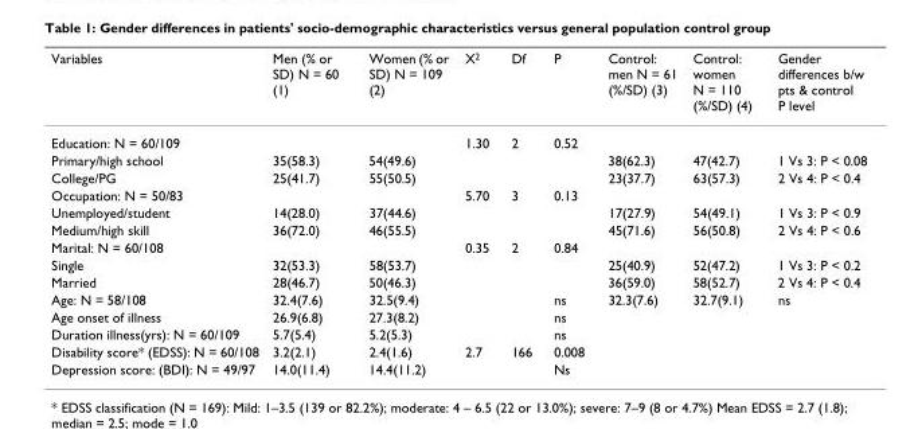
<table><thead><tr><td>Variables</td><td>Men (% or SD) N = 60 (1)</td><td>Women (% or SD) N = 109 (2)</td><td>X<sup>2</sup></td><td>Df</td><td>P</td><td>Control: men N = 61 (%/SD) (3)</td><td>Control: women N = 110 (%/SD) (4)</td><td>Gender differences b/w pts &amp; control P level</td></tr></thead><tbody><tr><td>Education: N = 60/109</td><td></td><td></td><td>1.30</td><td>2</td><td>0.52</td><td></td><td></td><td></td></tr><tr><td>Primary/high school</td><td>35(58.3)</td><td>54(49.6)</td><td></td><td></td><td></td><td>38(62.3)</td><td>47(42.7)</td><td>1 Vs 3: P &lt; 0.08</td></tr><tr><td>College/PG</td><td>25(41.7)</td><td>55(50.5)</td><td></td><td></td><td></td><td>23(37.7)</td><td>63(57.3)</td><td>2 Vs 4: P &lt; 0.4</td></tr><tr><td>Occupation: N = 50/83</td><td></td><td></td><td>5.70</td><td>3</td><td>0.13</td><td></td><td></td><td></td></tr><tr><td>Unemployed/student</td><td>14(28.0)</td><td>37(44.6)</td><td></td><td></td><td></td><td>17(27.9)</td><td>54(49.1)</td><td>1 Vs 3: P &lt; 0.9</td></tr><tr><td>Medium/high skill</td><td>36(72.0)</td><td>46(55.5)</td><td></td><td></td><td></td><td>45(71.6)</td><td>56(50.8)</td><td>2 Vs 4: P &lt; 0.6</td></tr><tr><td>Marital: N = 60/108</td><td></td><td></td><td>0.35</td><td>2</td><td>0.84</td><td></td><td></td><td></td></tr><tr><td>Single</td><td>32(53.3)</td><td>58(53.7)</td><td></td><td></td><td></td><td>25(40.9)</td><td>52(47.2)</td><td>1 Vs 3: P &lt; 0.2</td></tr><tr><td>Married</td><td>28(46.7)</td><td>50(46.3)</td><td></td><td></td><td></td><td>36(59.0)</td><td>58(52.7)</td><td>2 Vs 4: P &lt; 0.4</td></tr><tr><td>Age: N = 58/108</td><td>32.4(7.6)</td><td>32.5(9.4)</td><td></td><td></td><td>ns</td><td>32.3(7.6)</td><td>32.7(9.1)</td><td>ns</td></tr><tr><td>Age onset of illness</td><td>26.9(6.8)</td><td>27.3(8.2)</td><td></td><td></td><td>ns</td><td></td><td></td><td></td></tr><tr><td>Duration illness(yrs): N = 60/109</td><td>5.7(5.4)</td><td>5.2(5.3)</td><td></td><td></td><td>ns</td><td></td><td></td><td></td></tr><tr><td>Disability score* (EDSS): N = 60/108</td><td>3.2(2.1)</td><td>2.4(1.6)</td><td>2.7</td><td>166</td><td>0.008</td><td></td><td></td><td></td></tr><tr><td>Depression score: (BDI): N = 49/97</td><td>14.0(11.4)</td><td>14.4(11.2)</td><td></td><td></td><td>Ns</td><td></td><td></td><td></td></tr></tbody></table>